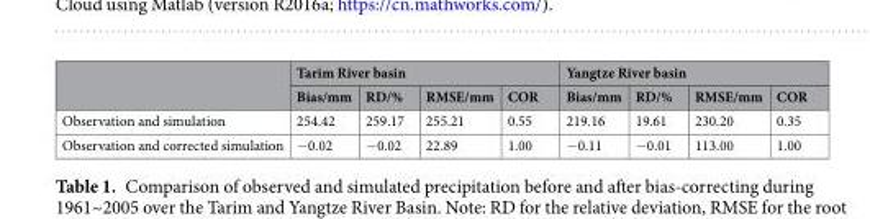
<table><thead><tr><td rowspan="2"></td><td colspan="4">Tarim River basin</td><td colspan="4">Yangtze River basin</td></tr><tr><td>Bias/mm</td><td>RD/%</td><td>RMSE/mm</td><td>COR</td><td>Bias/mm</td><td>RD/%</td><td>RMSE/mm</td><td>COR</td></tr></thead><tbody><tr><td>Observation and simulation</td><td>254.42</td><td>259.17</td><td>255.21</td><td>0.55</td><td>219.16</td><td>19.61</td><td>230.20</td><td>0.35</td></tr><tr><td>Observation and corrected simulation</td><td>−0.02</td><td>−0.02</td><td>22.89</td><td>1.00</td><td>−0.11</td><td>−0.01</td><td>113.00</td><td>1.00</td></tr></tbody></table>